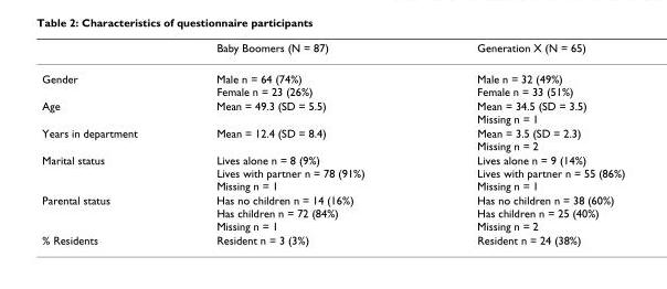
<table><thead><tr><td></td><td>Baby Boomers (N = 87)</td><td>Generation X (N = 65)</td></tr></thead><tbody><tr><td>Gender</td><td>Male n = 64 (74%) Female n = 23 (26%)</td><td>Male n = 32 (49%) Female n = 33 (51%)</td></tr><tr><td>Age</td><td>Mean = 49.3 (SD = 5.5)</td><td>Mean = 34.5 (SD = 3.5) Missing n = 1</td></tr><tr><td>Years in department</td><td>Mean = 12.4 (SD = 8.4)</td><td>Mean = 3.5 (SD = 2.3) Missing n = 2</td></tr><tr><td>Marital status</td><td>Lives alone n = 8 (9%) Lives with partner n = 78 (91%) Missing n = 1</td><td>Lives alone n = 9 (14%) Lives with partner n = 55 (86%) Missing n = 1</td></tr><tr><td>Parental status</td><td>Has no children n = 14 (16%) Has children n = 72 (84%) Missing n = 1</td><td>Has no children n = 38 (60%) Has children n = 25 (40%) Missing n = 2</td></tr><tr><td>% Residents</td><td>Resident n = 3 (3%)</td><td>Resident n = 24 (38%)</td></tr></tbody></table>